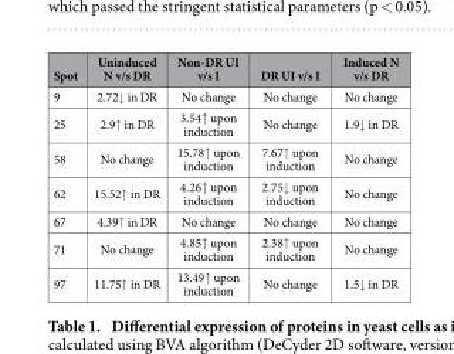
<table><thead><tr><td>Spot</td><td>Uninduced N v/s DR</td><td>Non-DR UI v/s I</td><td>DR UI v/s I</td><td>Induced N v/s DR</td></tr></thead><tbody><tr><td>9</td><td>2.72↓ in DR</td><td>No change</td><td>No change</td><td>No change</td></tr><tr><td>25</td><td>2.9↑ in DR</td><td>3.54↑ upon induction</td><td>No change</td><td>1.9↓ in DR</td></tr><tr><td>58</td><td>No change</td><td>15.78↑ upon induction</td><td>7.67↑ upon induction</td><td>No change</td></tr><tr><td>62</td><td>15.52↑ in DR</td><td>4.26↑ upon induction</td><td>2.75↓ upon induction</td><td>No change</td></tr><tr><td>67</td><td>4.39↑ in DR</td><td>No change</td><td>No change</td><td>No change</td></tr><tr><td>71</td><td>No change</td><td>4.85↑ upon induction</td><td>2.38↑ upon induction</td><td>No change</td></tr><tr><td>97</td><td>11.75↑ in DR</td><td>13.49↑ upon induction</td><td>No change</td><td>1.5↓ in DR</td></tr></tbody></table>